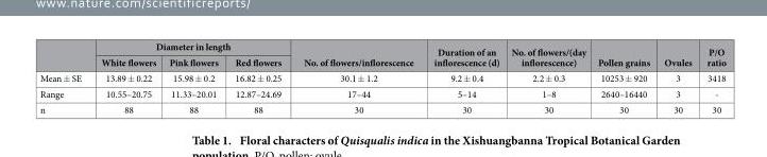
<table><thead><tr><td rowspan="2"></td><td colspan="3">Diameter in length</td><td rowspan="2">No. of flowers/inflorescence</td><td rowspan="2">Duration of an inflorescence (d)</td><td rowspan="2">No. of flowers/(day inflorescence)</td><td rowspan="2">Pollen grains</td><td rowspan="2">Ovules</td><td rowspan="2">P/O ratio</td></tr><tr><td>White flowers</td><td>Pink flowers</td><td>Red flowers</td></tr></thead><tbody><tr><td>Mean ± SE</td><td>13.89 ± 0.22</td><td>15.98 ± 0.2</td><td>16.82 ± 0.25</td><td>30.1 ± 1.2</td><td>9.2 ± 0.4</td><td>2.2 ± 0.3</td><td>10253 ± 920</td><td>3</td><td>3418</td></tr><tr><td>Range</td><td>10.55–20.75</td><td>11.33–20.01</td><td>12.87–24.69</td><td>17–44</td><td>5–14</td><td>1–8</td><td>2640–16440</td><td>3</td><td>-</td></tr><tr><td>n</td><td>88</td><td>88</td><td>88</td><td>30</td><td>30</td><td>30</td><td>30</td><td>30</td><td>30</td></tr></tbody></table>